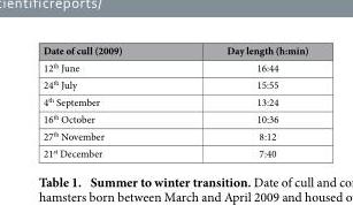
<table><thead><tr><td>Date of cull (2009)</td><td>Day length (h:min)</td></tr></thead><tbody><tr><td>12<sup>th</sup> June</td><td>16:44</td></tr><tr><td>24<sup>th</sup> July</td><td>15:55</td></tr><tr><td>4<sup>th</sup> September</td><td>13:24</td></tr><tr><td>16<sup>th</sup> October</td><td>10:36</td></tr><tr><td>27<sup>th</sup> November</td><td>8:12</td></tr><tr><td>21<sup>st</sup> December</td><td>7:40</td></tr></tbody></table>